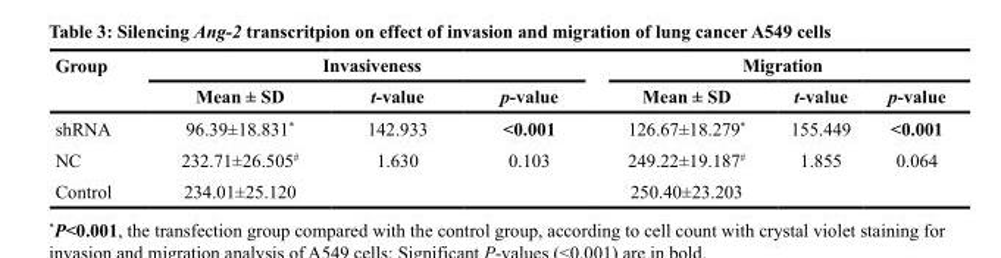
<table><thead><tr><td rowspan="2">Group</td><td colspan="3">Invasiveness</td><td colspan="3">Migration</td></tr><tr><td>Mean ± SD</td><td>t-value</td><td>p-value</td><td>Mean ± SD</td><td>t-value</td><td>p-value</td></tr></thead><tbody><tr><td>shRNA</td><td>96.39±18.831*</td><td>142.933</td><td>&lt;0.001</td><td>126.67±18.279*</td><td>155.449</td><td>&lt;0.001</td></tr><tr><td>NC</td><td>232.71±26.505<sup>#</sup></td><td>1.630</td><td>0.103</td><td>249.22±19.187<sup>#</sup></td><td>1.855</td><td>0.064</td></tr><tr><td>Control</td><td>234.01±25.120</td><td></td><td></td><td>250.40±23.203</td><td></td><td></td></tr></tbody></table>